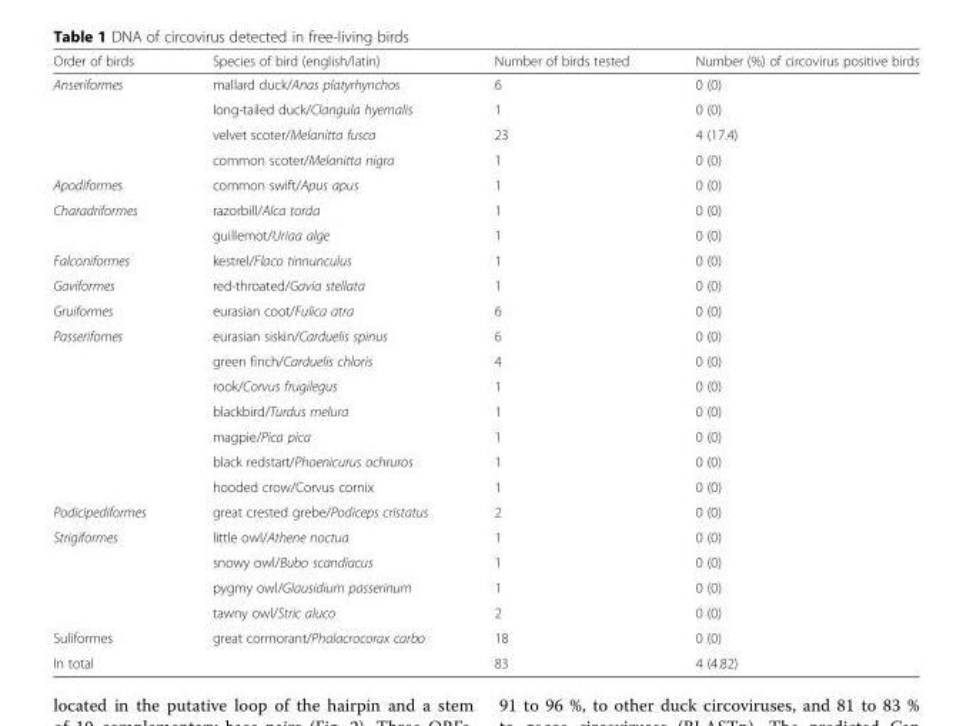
<table><thead><tr><td>Order of birds</td><td>Species of bird (english/latin)</td><td>Number of birds tested</td><td>Number (%) of circovirus positive birds</td></tr></thead><tbody><tr><td rowspan="4">Anseriformes</td><td>mallard duck/Anas platyrhynchos</td><td>6</td><td>0 (0)</td></tr><tr><td>long-tailed duck/Clangula hyemalis</td><td>1</td><td>0 (0)</td></tr><tr><td>velvet scoter/Melanitta fusca</td><td>23</td><td>4 (17.4)</td></tr><tr><td>common scoter/Melanitta nigra</td><td>1</td><td>0 (0)</td></tr><tr><td>Apodiformes</td><td>common swift/Apus apus</td><td>1</td><td>0 (0)</td></tr><tr><td rowspan="2">Charadriformes</td><td>razorbill/Alca torda</td><td>1</td><td>0 (0)</td></tr><tr><td>guillemot/Uriaa alge</td><td>1</td><td>0 (0)</td></tr><tr><td>Falconiformes</td><td>kestrel/Flaco tinnunculus</td><td>1</td><td>0 (0)</td></tr><tr><td>Gaviformes</td><td>red-throated/Gavia stellata</td><td>1</td><td>0 (0)</td></tr><tr><td>Gruiformes</td><td>eurasian coot/Fulica atra</td><td>6</td><td>0 (0)</td></tr><tr><td rowspan="7">Passerifomes</td><td>eurasian siskin/Carduelis spinus</td><td>6</td><td>0 (0)</td></tr><tr><td>green finch/Carduelis chloris</td><td>4</td><td>0 (0)</td></tr><tr><td>rook/Corvus frugilegus</td><td>1</td><td>0 (0)</td></tr><tr><td>blackbird/Turdus melura</td><td>1</td><td>0 (0)</td></tr><tr><td>magpie/Pica pica</td><td>1</td><td>0 (0)</td></tr><tr><td>black redstart/Phoenicurus ochruros</td><td>1</td><td>0 (0)</td></tr><tr><td>hooded crow/Corvus cornix</td><td>1</td><td>0 (0)</td></tr><tr><td>Podicipediformes</td><td>great crested grebe/Podiceps cristatus</td><td>2</td><td>0 (0)</td></tr><tr><td rowspan="4">Strigiformes</td><td>little owl/Athene noctua</td><td>1</td><td>0 (0)</td></tr><tr><td>snowy owl/Bubo scandiacus</td><td>1</td><td>0 (0)</td></tr><tr><td>pygmy owl/Glausidium passerinum</td><td>1</td><td>0 (0)</td></tr><tr><td>tawny owl/Stric aluco</td><td>2</td><td>0 (0)</td></tr><tr><td>Suliformes</td><td>great cormorant/Phalacrocorax carbo</td><td>18</td><td>0 (0)</td></tr><tr><td>In total</td><td></td><td>83</td><td>4 (4.82)</td></tr></tbody></table>